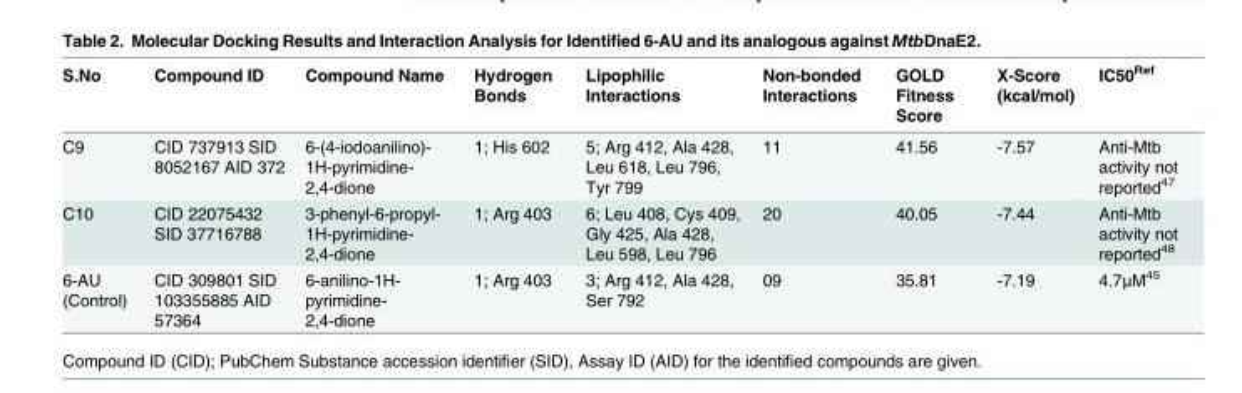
<table><thead><tr><td>S.No</td><td>Compound ID</td><td>Compound Name</td><td>Hydrogen Bonds</td><td>Lipophilic Interactions</td><td>Non-bonded Interactions</td><td>GOLD Fitness Score</td><td>X-Score (kcal/mol)</td><td>IC50<sup>Ref</sup></td></tr></thead><tbody><tr><td>C9</td><td>CID 737913 SID 8052167 AID 372</td><td>6-(4-iodoanilino)- 1H-pyrimidine- 2,4-dione</td><td>1; His 602</td><td>5; Arg 412, Ala 428, Leu 618, Leu 796, Tyr 799</td><td>11</td><td>41.56</td><td>-7.57</td><td>Anti-Mtb activity not reported<sup>47</sup></td></tr><tr><td>C10</td><td>CID 22075432 SID 37716788</td><td>3-phenyl-6-propyl- 1H-pyrimidine- 2,4-dione</td><td>1; Arg 403</td><td>6; Leu 408, Cys 409, Gly 425, Ala 428, Leu 598, Leu 796</td><td>20</td><td>40.05</td><td>-7.44</td><td>Anti-Mtb activity not reported<sup>48</sup></td></tr><tr><td>6-AU (Control)</td><td>CID 309801 SID 103355885 AID 57364</td><td>6-anilino-1H- pyrimidine- 2,4-dione</td><td>1; Arg 403</td><td>3; Arg 412, Ala 428, Ser 792</td><td>09</td><td>35.81</td><td>-7.19</td><td>4.7μM<sup>45</sup></td></tr></tbody></table>